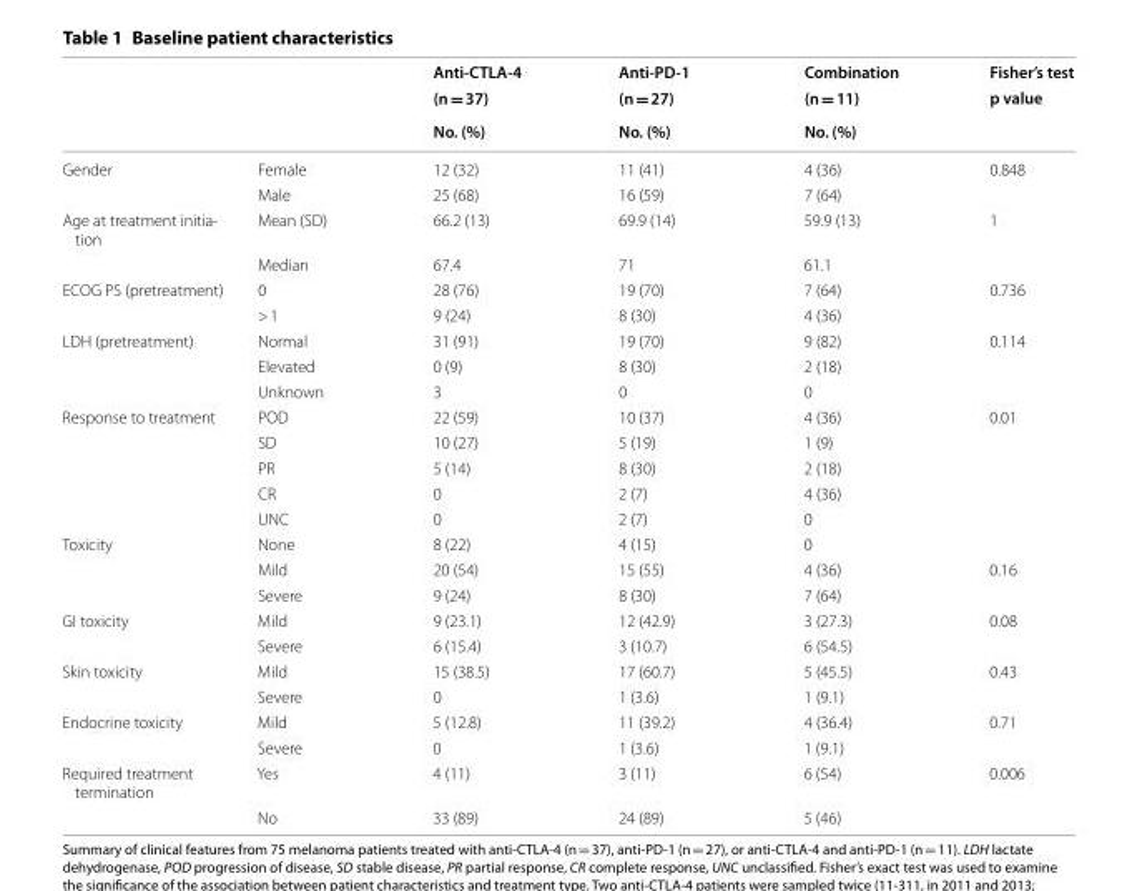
<table><thead><tr><td rowspan="3"></td><td rowspan="3"></td><td rowspan="3">Anti‑CTLA‑4 (n = 37) No. (%)</td><td rowspan="3">Anti‑PD‑1 (n = 27) No. (%)</td><td rowspan="3">Combination (n = 11) No. (%)</td><td rowspan="3">Fisher’s test p value</td></tr><tr></tr><tr></tr></thead><tbody><tr><td rowspan="2">Gender</td><td>Female</td><td>12 (32)</td><td>11 (41)</td><td>4 (36)</td><td>0.848</td></tr><tr><td>Male</td><td>25 (68)</td><td>16 (59)</td><td>7 (64)</td><td></td></tr><tr><td rowspan="2">Age at treatment initia- tion</td><td>Mean (SD)</td><td>66.2 (13)</td><td>69.9 (14)</td><td>59.9 (13)</td><td>1</td></tr><tr><td>Median</td><td>67.4</td><td>71</td><td>61.1</td><td></td></tr><tr><td rowspan="2">ECOG PS (pretreatment)</td><td>0</td><td>28 (76)</td><td>19 (70)</td><td>7 (64)</td><td>0.736</td></tr><tr><td>&gt; 1</td><td>9 (24)</td><td>8 (30)</td><td>4 (36)</td><td></td></tr><tr><td rowspan="3">LDH (pretreatment)</td><td>Normal</td><td>31 (91)</td><td>19 (70)</td><td>9 (82)</td><td>0.114</td></tr><tr><td>Elevated</td><td>0 (9)</td><td>8 (30)</td><td>2 (18)</td><td></td></tr><tr><td>Unknown</td><td>3</td><td>0</td><td>0</td><td></td></tr><tr><td rowspan="5">Response to treatment</td><td>POD</td><td>22 (59)</td><td>10 (37)</td><td>4 (36)</td><td>0.01</td></tr><tr><td>SD</td><td>10 (27)</td><td>5 (19)</td><td>1 (9)</td><td></td></tr><tr><td>PR</td><td>5 (14)</td><td>8 (30)</td><td>2 (18)</td><td></td></tr><tr><td>CR</td><td>0</td><td>2 (7)</td><td>4 (36)</td><td></td></tr><tr><td>UNC</td><td>0</td><td>2 (7)</td><td>0</td><td></td></tr><tr><td rowspan="3">Toxicity</td><td>None</td><td>8 (22)</td><td>4 (15)</td><td>0</td><td></td></tr><tr><td>Mild</td><td>20 (54)</td><td>15 (55)</td><td>4 (36)</td><td>0.16</td></tr><tr><td>Severe</td><td>9 (24)</td><td>8 (30)</td><td>7 (64)</td><td></td></tr><tr><td rowspan="2">GI toxicity</td><td>Mild</td><td>9 (23.1)</td><td>12 (42.9)</td><td>3 (27.3)</td><td>0.08</td></tr><tr><td>Severe</td><td>6 (15.4)</td><td>3 (10.7)</td><td>6 (54.5)</td><td></td></tr><tr><td rowspan="2">Skin toxicity</td><td>Mild</td><td>15 (38.5)</td><td>17 (60.7)</td><td>5 (45.5)</td><td>0.43</td></tr><tr><td>Severe</td><td>0</td><td>1 (3.6)</td><td>1 (9.1)</td><td></td></tr><tr><td rowspan="2">Endocrine toxicity</td><td>Mild</td><td>5 (12.8)</td><td>11 (39.2)</td><td>4 (36.4)</td><td>0.71</td></tr><tr><td>Severe</td><td>0</td><td>1 (3.6)</td><td>1 (9.1)</td><td></td></tr><tr><td rowspan="2">Required treatment termination</td><td>Yes</td><td>4 (11)</td><td>3 (11)</td><td>6 (54)</td><td>0.006</td></tr><tr><td>No</td><td>33 (89)</td><td>24 (89)</td><td>5 (46)</td><td></td></tr></tbody></table>